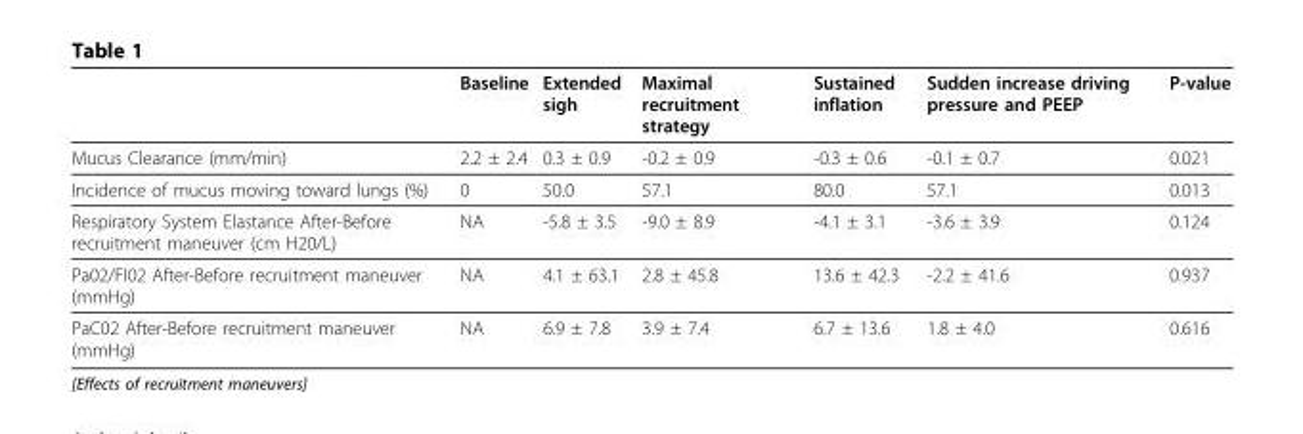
<table><thead><tr><td></td><td>Baseline</td><td>Extended sigh</td><td>Maximal recruitment strategy</td><td>Sustained inflation</td><td>Sudden increase driving pressure and PEEP</td><td>P-value</td></tr></thead><tbody><tr><td>Mucus Clearance (mm/min)</td><td>2.2 ± 2.4</td><td>0.3 ± 0.9</td><td>-0.2 ± 0.9</td><td>-0.3 ± 0.6</td><td>-0.1 ± 0.7</td><td>0.021</td></tr><tr><td>Incidence of mucus moving toward lungs (%)</td><td>0</td><td>50.0</td><td>57.1</td><td>80.0</td><td>57.1</td><td>0.013</td></tr><tr><td>Respiratory System Elastance After-Before recruitment maneuver (cm H20/L)</td><td>NA</td><td>-5.8 ± 3.5</td><td>-9.0 ± 8.9</td><td>-4.1 ± 3.1</td><td>-3.6 ± 3.9</td><td>0.124</td></tr><tr><td>Pa02/FI02 After-Before recruitment maneuver (mmHg)</td><td>NA</td><td>4.1 ± 63.1</td><td>2.8 ± 45.8</td><td>13.6 ± 42.3</td><td>-2.2 ± 41.6</td><td>0.937</td></tr><tr><td>PaC02 After-Before recruitment maneuver (mmHg)</td><td>NA</td><td>6.9 ± 7.8</td><td>3.9 ± 7.4</td><td>6.7 ± 13.6</td><td>1.8 ± 4.0</td><td>0.616</td></tr></tbody></table>